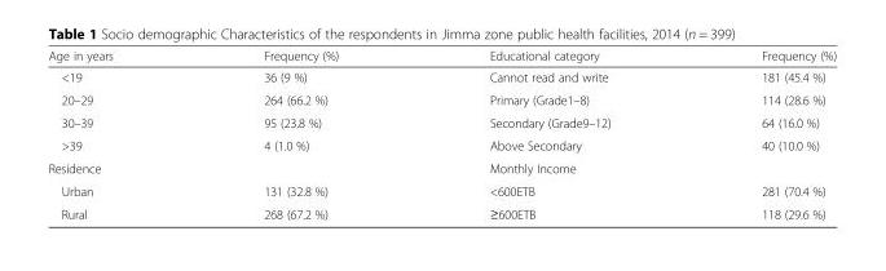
<table><thead><tr><td>Age in years</td><td>Frequency (%)</td><td>Educational category</td><td>Frequency (%)</td></tr></thead><tbody><tr><td>&lt;19</td><td>36 (9 %)</td><td>Cannot read and write</td><td>181 (45.4 %)</td></tr><tr><td>20–29</td><td>264 (66.2 %)</td><td>Primary (Grade1–8)</td><td>114 (28.6 %)</td></tr><tr><td>30–39</td><td>95 (23.8 %)</td><td>Secondary (Grade9–12)</td><td>64 (16.0 %)</td></tr><tr><td>&gt;39</td><td>4 (1.0 %)</td><td>Above Secondary</td><td>40 (10.0 %)</td></tr><tr><td>Residence</td><td></td><td>Monthly Income</td><td></td></tr><tr><td>Urban</td><td>131 (32.8 %)</td><td>&lt;600ETB</td><td>281 (70.4 %)</td></tr><tr><td>Rural</td><td>268 (67.2 %)</td><td>≥600ETB</td><td>118 (29.6 %)</td></tr></tbody></table>